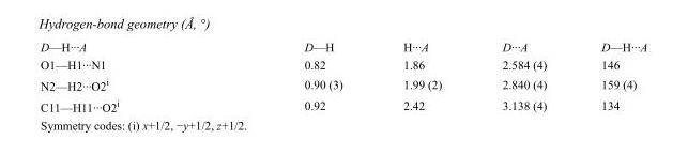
<table><tbody><tr><td>D—H···A</td><td>D—H</td><td>H···A</td><td>D···A</td><td>D—H···A</td></tr><tr><td>O1—H1···N1</td><td>0.82</td><td>1.86</td><td>2.584 (4)</td><td>146</td></tr><tr><td>N2—H2···O2<sup>i</sup></td><td>0.90 (3)</td><td>1.99 (2)</td><td>2.840 (4)</td><td>159 (4)</td></tr><tr><td>C11—H11···O2<sup>i</sup></td><td>0.92</td><td>2.42</td><td>3.138 (4)</td><td>134</td></tr></tbody></table>